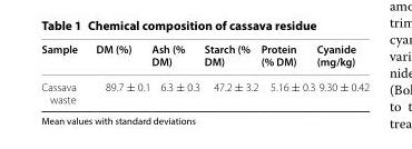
<table><thead><tr><td>Sample</td><td>DM (%)</td><td>Ash (% DM)</td><td>Starch (% DM)</td><td>Protein (% DM)</td><td>Cyanide (mg/kg)</td></tr></thead><tbody><tr><td>Cassava waste</td><td>89.7 ± 0.1</td><td>6.3 ± 0.3</td><td>47.2 ± 3.2</td><td>5.16 ± 0.3</td><td>9.30 ± 0.42</td></tr></tbody></table>